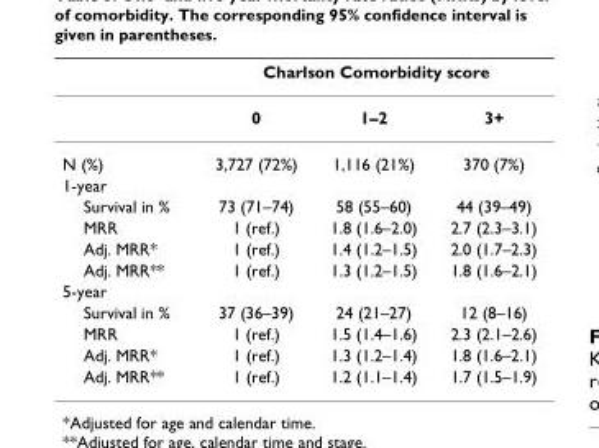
<table><thead><tr><td rowspan="2"></td><td colspan="3">Charlson Comorbidity score</td></tr><tr><td>0</td><td>1–2</td><td>3+</td></tr></thead><tbody><tr><td>N (%)</td><td>3,727 (72%)</td><td>1,116 (21%)</td><td>370 (7%)</td></tr><tr><td colspan="4">1-year</td></tr><tr><td>Survival in %</td><td>73 (71–74)</td><td>58 (55–60)</td><td>44 (39–49)</td></tr><tr><td>MRR</td><td>1 (ref.)</td><td>1.8 (1.6–2.0)</td><td>2.7 (2.3–3.1)</td></tr><tr><td>Adj. MRR*</td><td>1 (ref.)</td><td>1.4 (1.2–1.5)</td><td>2.0 (1.7–2.3)</td></tr><tr><td>Adj. MRR**</td><td>1 (ref.)</td><td>1.3 (1.2–1.5)</td><td>1.8 (1.6–2.1)</td></tr><tr><td colspan="4">5-year</td></tr><tr><td>Survival in %</td><td>37 (36–39)</td><td>24 (21–27)</td><td>12 (8–16)</td></tr><tr><td>MRR</td><td>1 (ref.)</td><td>1.5 (1.4–1.6)</td><td>2.3 (2.1–2.6)</td></tr><tr><td>Adj. MRR*</td><td>1 (ref.)</td><td>1.3 (1.2–1.4)</td><td>1.8 (1.6–2.1)</td></tr><tr><td>Adj. MRR**</td><td>1 (ref.)</td><td>1.2 (1.1–1.4)</td><td>1.7 (1.5–1.9)</td></tr></tbody></table>